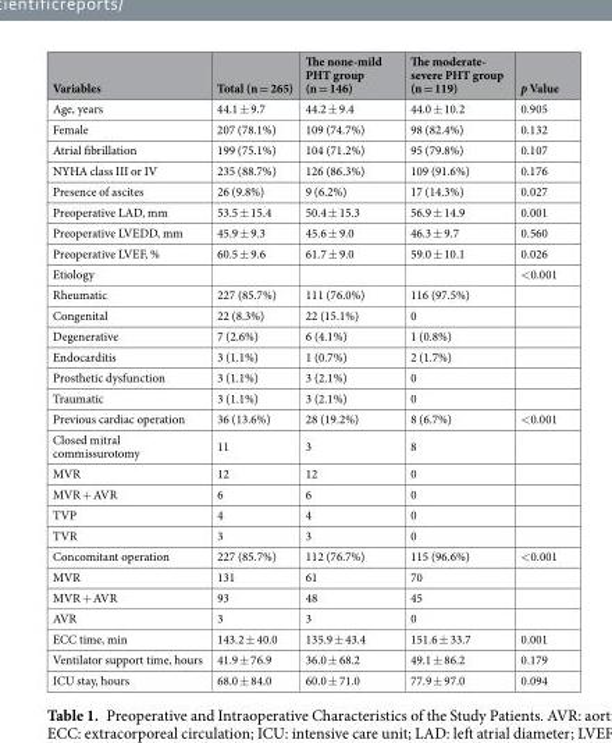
<table><thead><tr><td>Variables</td><td>Total (n = 265)</td><td>The none-mild PHT group (n = 146)</td><td>The moderate- severe PHT group (n = 119)</td><td>p Value</td></tr></thead><tbody><tr><td>Age, years</td><td>44.1 ± 9.7</td><td>44.2 ± 9.4</td><td>44.0 ± 10.2</td><td>0.905</td></tr><tr><td>Female</td><td>207 (78.1%)</td><td>109 (74.7%)</td><td>98 (82.4%)</td><td>0.132</td></tr><tr><td>Atrial fibrillation</td><td>199 (75.1%)</td><td>104 (71.2%)</td><td>95 (79.8%)</td><td>0.107</td></tr><tr><td>NYHA class III or IV</td><td>235 (88.7%)</td><td>126 (86.3%)</td><td>109 (91.6%)</td><td>0.176</td></tr><tr><td>Presence of ascites</td><td>26 (9.8%)</td><td>9 (6.2%)</td><td>17 (14.3%)</td><td>0.027</td></tr><tr><td>Preoperative LAD, mm</td><td>53.5 ± 15.4</td><td>50.4 ± 15.3</td><td>56.9 ± 14.9</td><td>0.001</td></tr><tr><td>Preoperative LVEDD, mm</td><td>45.9 ± 9.3</td><td>45.6 ± 9.0</td><td>46.3 ± 9.7</td><td>0.560</td></tr><tr><td>Preoperative LVEF, %</td><td>60.5 ± 9.6</td><td>61.7 ± 9.0</td><td>59.0 ± 10.1</td><td>0.026</td></tr><tr><td>Etiology</td><td></td><td></td><td></td><td>&lt;0.001</td></tr><tr><td>Rheumatic</td><td>227 (85.7%)</td><td>111 (76.0%)</td><td>116 (97.5%)</td><td></td></tr><tr><td>Congenital</td><td>22 (8.3%)</td><td>22 (15.1%)</td><td>0</td><td></td></tr><tr><td>Degenerative</td><td>7 (2.6%)</td><td>6 (4.1%)</td><td>1 (0.8%)</td><td></td></tr><tr><td>Endocarditis</td><td>3 (1.1%)</td><td>1 (0.7%)</td><td>2 (1.7%)</td><td></td></tr><tr><td>Prosthetic dysfunction</td><td>3 (1.1%)</td><td>3 (2.1%)</td><td>0</td><td></td></tr><tr><td>Traumatic</td><td>3 (1.1%)</td><td>3 (2.1%)</td><td>0</td><td></td></tr><tr><td>Previous cardiac operation</td><td>36 (13.6%)</td><td>28 (19.2%)</td><td>8 (6.7%)</td><td>&lt;0.001</td></tr><tr><td>Closed mitral commissurotomy</td><td>11</td><td>3</td><td>8</td><td></td></tr><tr><td>MVR</td><td>12</td><td>12</td><td>0</td><td></td></tr><tr><td>MVR + AVR</td><td>6</td><td>6</td><td>0</td><td></td></tr><tr><td>TVP</td><td>4</td><td>4</td><td>0</td><td></td></tr><tr><td>TVR</td><td>3</td><td>3</td><td>0</td><td></td></tr><tr><td>Concomitant operation</td><td>227 (85.7%)</td><td>112 (76.7%)</td><td>115 (96.6%)</td><td>&lt;0.001</td></tr><tr><td>MVR</td><td>131</td><td>61</td><td>70</td><td></td></tr><tr><td>MVR + AVR</td><td>93</td><td>48</td><td>45</td><td></td></tr><tr><td>AVR</td><td>3</td><td>3</td><td>0</td><td></td></tr><tr><td>ECC time, min</td><td>143.2 ± 40.0</td><td>135.9 ± 43.4</td><td>151.6 ± 33.7</td><td>0.001</td></tr><tr><td>Ventilator support time, hours</td><td>41.9 ± 76.9</td><td>36.0 ± 68.2</td><td>49.1 ± 86.2</td><td>0.179</td></tr><tr><td>ICU stay, hours</td><td>68.0 ± 84.0</td><td>60.0 ± 71.0</td><td>77.9 ± 97.0</td><td>0.094</td></tr></tbody></table>